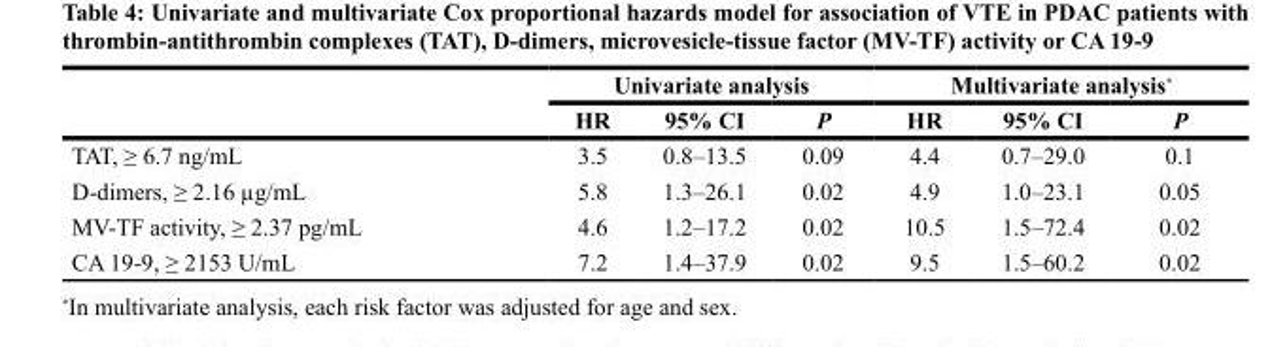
<table><thead><tr><td rowspan="2"></td><td colspan="3">Univariate analysis</td><td colspan="3">Multivariate analysis*</td></tr><tr><td>HR</td><td>95% CI</td><td>P</td><td>HR</td><td>95% CI</td><td>P</td></tr></thead><tbody><tr><td>TAT, ≥ 6.7 ng/mL</td><td>3.5</td><td>0.8–13.5</td><td>0.09</td><td>4.4</td><td>0.7–29.0</td><td>0.1</td></tr><tr><td>D-dimers, ≥ 2.16 µg/mL</td><td>5.8</td><td>1.3–26.1</td><td>0.02</td><td>4.9</td><td>1.0–23.1</td><td>0.05</td></tr><tr><td>MV-TF activity, ≥ 2.37 pg/mL</td><td>4.6</td><td>1.2–17.2</td><td>0.02</td><td>10.5</td><td>1.5–72.4</td><td>0.02</td></tr><tr><td>CA 19-9, ≥ 2153 U/mL</td><td>7.2</td><td>1.4–37.9</td><td>0.02</td><td>9.5</td><td>1.5–60.2</td><td>0.02</td></tr></tbody></table>